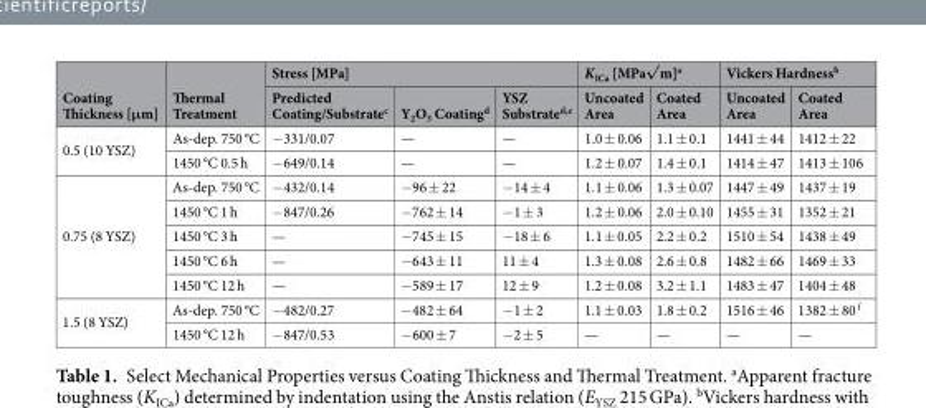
<table><thead><tr><td rowspan="2">Coating Thickness [μm]</td><td rowspan="2">Thermal Treatment</td><td colspan="3">Stress [MPa]</td><td colspan="2">K<sub>ICa</sub> [MPa√m]<sup>a</sup></td><td colspan="2">Vickers Hardness<sup>b</sup></td></tr><tr><td>Predicted Coating/Substrate<sup>c</sup></td><td>Y<sub>2</sub>O<sub>3</sub> Coating<sup>d</sup></td><td>YSZ Substrate<sup>d,e</sup></td><td>Uncoated Area</td><td>Coated Area</td><td>Uncoated Area</td><td>Coated Area</td></tr></thead><tbody><tr><td rowspan="2">0.5 (10 YSZ)</td><td>As-dep. 750 °C</td><td>−331/0.07</td><td>—</td><td>—</td><td>1.0 ± 0.06</td><td>1.1 ± 0.1</td><td>1441 ± 44</td><td>1412 ± 22</td></tr><tr><td>1450 °C 0.5 h</td><td>−649/0.14</td><td>—</td><td>—</td><td>1.2 ± 0.07</td><td>1.4 ± 0.1</td><td>1414 ± 47</td><td>1413 ± 106</td></tr><tr><td rowspan="5">0.75 (8 YSZ)</td><td>As-dep. 750 °C</td><td>−432/0.14</td><td>−96 ± 22</td><td>−14 ± 4</td><td>1.1 ± 0.06</td><td>1.3 ± 0.07</td><td>1447 ± 49</td><td>1437 ± 19</td></tr><tr><td>1450 °C 1 h</td><td>−847/0.26</td><td>−762 ± 14</td><td>−1 ± 3</td><td>1.2 ± 0.06</td><td>2.0 ± 0.10</td><td>1455 ± 31</td><td>1352 ± 21</td></tr><tr><td>1450 °C 3 h</td><td>—</td><td>−745 ± 15</td><td>−18 ± 6</td><td>1.1 ± 0.05</td><td>2.2 ± 0.2</td><td>1510 ± 54</td><td>1438 ± 49</td></tr><tr><td>1450 °C 6 h</td><td>—</td><td>−643 ± 11</td><td>11 ± 4</td><td>1.3 ± 0.08</td><td>2.6 ± 0.8</td><td>1482 ± 66</td><td>1469 ± 33</td></tr><tr><td>1450 °C 12 h</td><td>—</td><td>−589 ± 17</td><td>12 ± 9</td><td>1.2 ± 0.08</td><td>3.2 ± 1.1</td><td>1483 ± 47</td><td>1404 ± 48</td></tr><tr><td rowspan="2">1.5 (8 YSZ)</td><td>As-dep. 750 °C</td><td>−482/0.27</td><td>−482 ± 64</td><td>−1 ± 2</td><td>1.1 ± 0.03</td><td>1.8 ± 0.2</td><td>1516 ± 46</td><td>1382 ± 80 <sup>f</sup></td></tr><tr><td>1450 °C 12 h</td><td>−847/0.53</td><td>−600 ± 7</td><td>−2 ± 5</td><td>—</td><td>—</td><td>—</td><td>—</td></tr></tbody></table>